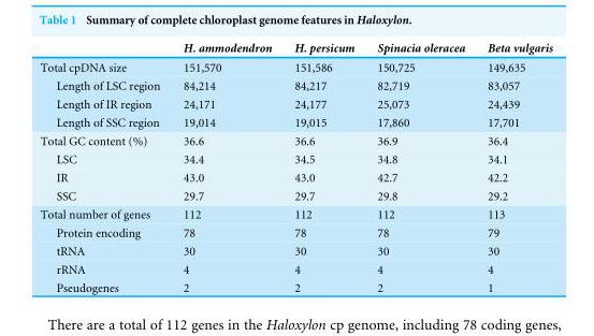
<table><thead><tr><td></td><td>H. ammodendron</td><td>H. persicum</td><td>Spinacia oleracea</td><td>Beta vulgaris</td></tr></thead><tbody><tr><td>Total cpDNA size</td><td>151,570</td><td>151,586</td><td>150,725</td><td>149,635</td></tr><tr><td>Length of LSC region</td><td>84,214</td><td>84,217</td><td>82,719</td><td>83,057</td></tr><tr><td>Length of IR region</td><td>24,171</td><td>24,177</td><td>25,073</td><td>24,439</td></tr><tr><td>Length of SSC region</td><td>19,014</td><td>19,015</td><td>17,860</td><td>17,701</td></tr><tr><td>Total GC content (%)</td><td>36.6</td><td>36.6</td><td>36.9</td><td>36.4</td></tr><tr><td>LSC</td><td>34.4</td><td>34.5</td><td>34.8</td><td>34.1</td></tr><tr><td>IR</td><td>43.0</td><td>43.0</td><td>42.7</td><td>42.2</td></tr><tr><td>SSC</td><td>29.7</td><td>29.7</td><td>29.8</td><td>29.2</td></tr><tr><td>Total number of genes</td><td>112</td><td>112</td><td>112</td><td>113</td></tr><tr><td>Protein encoding</td><td>78</td><td>78</td><td>78</td><td>79</td></tr><tr><td>tRNA</td><td>30</td><td>30</td><td>30</td><td>30</td></tr><tr><td>rRNA</td><td>4</td><td>4</td><td>4</td><td>4</td></tr><tr><td>Pseudogenes</td><td>2</td><td>2</td><td>2</td><td>1</td></tr></tbody></table>